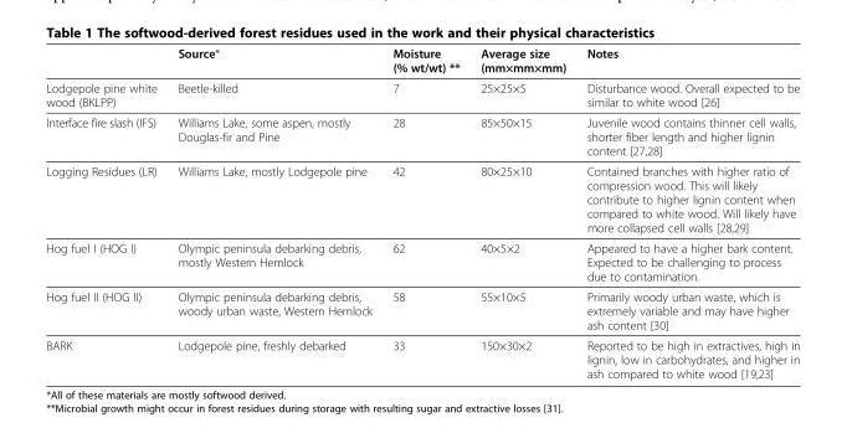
<table><thead><tr><td></td><td>Source*</td><td>Moisture (% wt/wt) **</td><td>Average size (mm×mm×mm)</td><td>Notes</td></tr></thead><tbody><tr><td>Lodgepole pine white wood (BKLPP)</td><td>Beetle-killed</td><td>7</td><td>25×25×5</td><td>Disturbance wood. Overall expected to be similar to white wood [26]</td></tr><tr><td>Interface fire slash (IFS)</td><td>Williams Lake, some aspen, mostly Douglas-fir and Pine</td><td>28</td><td>85×50×15</td><td>Juvenile wood contains thinner cell walls, shorter fiber length and higher lignin content [27,28]</td></tr><tr><td>Logging Residues (LR)</td><td>Williams Lake, mostly Lodgepole pine</td><td>42</td><td>80×25×10</td><td>Contained branches with higher ratio of compression wood. This will likely contribute to higher lignin content when compared to white wood. Will likely have more collapsed cell walls [28,29]</td></tr><tr><td>Hog fuel I (HOG I)</td><td>Olympic peninsula debarking debris, mostly Western Hemlock</td><td>62</td><td>40×5×2</td><td>Appeared to have a higher bark content. Expected to be challenging to process due to contamination.</td></tr><tr><td>Hog fuel II (HOG II)</td><td>Olympic peninsula debarking debris, woody urban waste, Western Hemlock</td><td>58</td><td>55×10×5</td><td>Primarily woody urban waste, which is extremely variable and may have higher ash content [30]</td></tr><tr><td>BARK</td><td>Lodgepole pine, freshly debarked</td><td>33</td><td>150×30×2</td><td>Reported to be high in extractives, high in lignin, low in carbohydrates, and higher in ash compared to white wood [19,23]</td></tr></tbody></table>